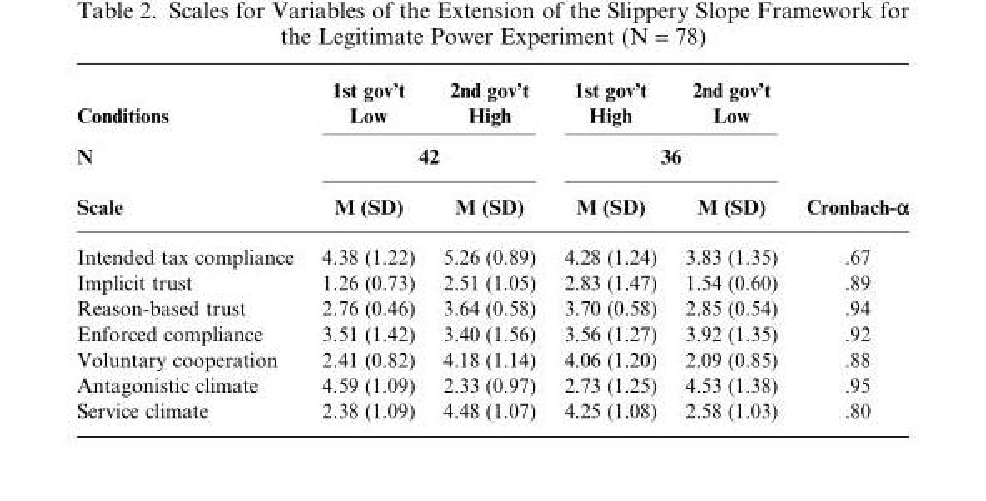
<table><thead><tr><td rowspan="4">Conditions N Scale</td><td rowspan="2">1st gov’t Low</td><td rowspan="2">2nd gov’t High</td><td rowspan="2">1st gov’t High</td><td rowspan="2">2nd gov’t Low</td><td rowspan="4">Cronbach-α</td></tr><tr></tr><tr><td colspan="2">42</td><td colspan="2">36</td></tr><tr><td>M (SD)</td><td>M (SD)</td><td>M (SD)</td><td>M (SD)</td></tr></thead><tbody><tr><td>Intended tax compliance</td><td>4.38 (1.22)</td><td>5.26 (0.89)</td><td>4.28 (1.24)</td><td>3.83 (1.35)</td><td>.67</td></tr><tr><td>Implicit trust</td><td>1.26 (0.73)</td><td>2.51 (1.05)</td><td>2.83 (1.47)</td><td>1.54 (0.60)</td><td>.89</td></tr><tr><td>Reason-based trust</td><td>2.76 (0.46)</td><td>3.64 (0.58)</td><td>3.70 (0.58)</td><td>2.85 (0.54)</td><td>.94</td></tr><tr><td>Enforced compliance</td><td>3.51 (1.42)</td><td>3.40 (1.56)</td><td>3.56 (1.27)</td><td>3.92 (1.35)</td><td>.92</td></tr><tr><td>Voluntary cooperation</td><td>2.41 (0.82)</td><td>4.18 (1.14)</td><td>4.06 (1.20)</td><td>2.09 (0.85)</td><td>.88</td></tr><tr><td>Antagonistic climate</td><td>4.59 (1.09)</td><td>2.33 (0.97)</td><td>2.73 (1.25)</td><td>4.53 (1.38)</td><td>.95</td></tr><tr><td>Service climate</td><td>2.38 (1.09)</td><td>4.48 (1.07)</td><td>4.25 (1.08)</td><td>2.58 (1.03)</td><td>.80</td></tr></tbody></table>